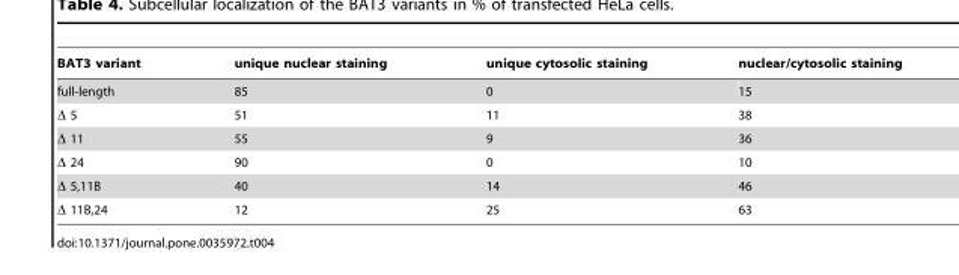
<table><thead><tr><td>BAT3 variant</td><td>unique nuclear staining</td><td>unique cytosolic staining</td><td>nuclear/cytosolic staining</td></tr></thead><tbody><tr><td>full-length</td><td>85</td><td>0</td><td>15</td></tr><tr><td>Δ 5</td><td>51</td><td>11</td><td>38</td></tr><tr><td>Δ 11</td><td>55</td><td>9</td><td>36</td></tr><tr><td>Δ 24</td><td>90</td><td>0</td><td>10</td></tr><tr><td>Δ 5,11B</td><td>40</td><td>14</td><td>46</td></tr><tr><td>Δ 11B,24</td><td>12</td><td>25</td><td>63</td></tr></tbody></table>